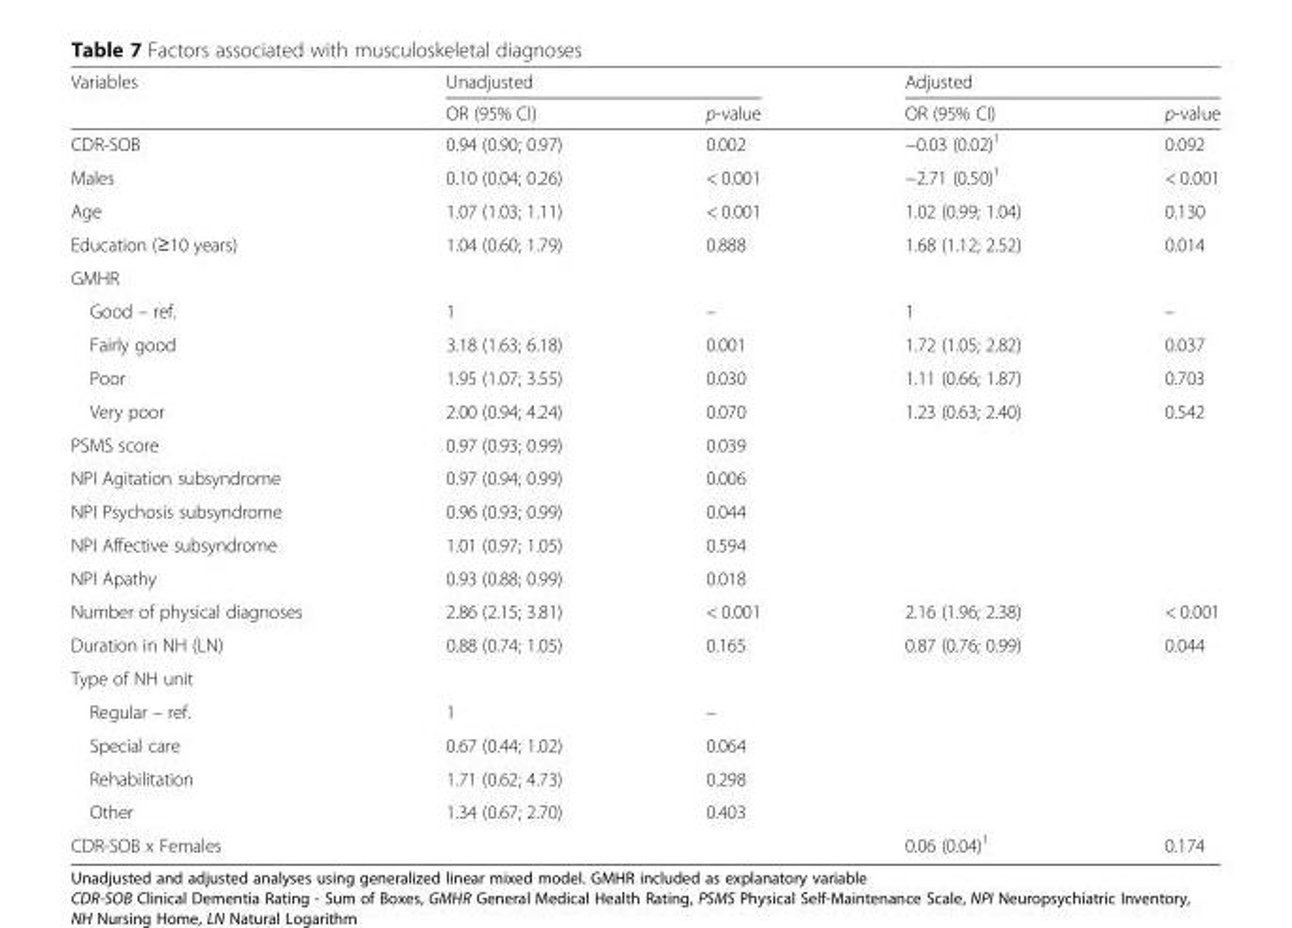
<table><thead><tr><td rowspan="2">Variables</td><td colspan="2">Unadjusted</td><td colspan="2">Adjusted</td></tr><tr><td>OR (95% CI)</td><td>p-value</td><td>OR (95% CI)</td><td>p-value</td></tr></thead><tbody><tr><td>CDR-SOB</td><td>0.94 (0.90; 0.97)</td><td>0.002</td><td>−0.03 (0.02)<sup>1</sup></td><td>0.092</td></tr><tr><td>Males</td><td>0.10 (0.04; 0.26)</td><td>&lt; 0.001</td><td>−2.71 (0.50)<sup>1</sup></td><td>&lt; 0.001</td></tr><tr><td>Age</td><td>1.07 (1.03; 1.11)</td><td>&lt; 0.001</td><td>1.02 (0.99; 1.04)</td><td>0.130</td></tr><tr><td>Education (≥10 years)</td><td>1.04 (0.60; 1.79)</td><td>0.888</td><td>1.68 (1.12; 2.52)</td><td>0.014</td></tr><tr><td colspan="5">GMHR</td></tr><tr><td>Good – ref.</td><td>1</td><td>–</td><td>1</td><td>–</td></tr><tr><td>Fairly good</td><td>3.18 (1.63; 6.18)</td><td>0.001</td><td>1.72 (1.05; 2.82)</td><td>0.037</td></tr><tr><td>Poor</td><td>1.95 (1.07; 3.55)</td><td>0.030</td><td>1.11 (0.66; 1.87)</td><td>0.703</td></tr><tr><td>Very poor</td><td>2.00 (0.94; 4.24)</td><td>0.070</td><td>1.23 (0.63; 2.40)</td><td>0.542</td></tr><tr><td>PSMS score</td><td>0.97 (0.93; 0.99)</td><td>0.039</td><td></td><td></td></tr><tr><td>NPI Agitation subsyndrome</td><td>0.97 (0.94; 0.99)</td><td>0.006</td><td></td><td></td></tr><tr><td>NPI Psychosis subsyndrome</td><td>0.96 (0.93; 0.99)</td><td>0.044</td><td></td><td></td></tr><tr><td>NPI Affective subsyndrome</td><td>1.01 (0.97; 1.05)</td><td>0.594</td><td></td><td></td></tr><tr><td>NPI Apathy</td><td>0.93 (0.88; 0.99)</td><td>0.018</td><td></td><td></td></tr><tr><td>Number of physical diagnoses</td><td>2.86 (2.15; 3.81)</td><td>&lt; 0.001</td><td>2.16 (1.96; 2.38)</td><td>&lt; 0.001</td></tr><tr><td>Duration in NH (LN)</td><td>0.88 (0.74; 1.05)</td><td>0.165</td><td>0.87 (0.76; 0.99)</td><td>0.044</td></tr><tr><td colspan="5">Type of NH unit</td></tr><tr><td>Regular – ref.</td><td>1</td><td>–</td><td></td><td></td></tr><tr><td>Special care</td><td>0.67 (0.44; 1.02)</td><td>0.064</td><td></td><td></td></tr><tr><td>Rehabilitation</td><td>1.71 (0.62; 4.73)</td><td>0.298</td><td></td><td></td></tr><tr><td>Other</td><td>1.34 (0.67; 2.70)</td><td>0.403</td><td></td><td></td></tr><tr><td>CDR-SOB x Females</td><td></td><td></td><td>0.06 (0.04)<sup>1</sup></td><td>0.174</td></tr></tbody></table>